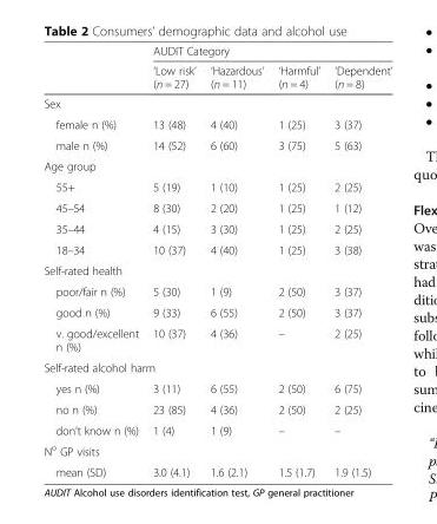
<table><thead><tr><td rowspan="2"></td><td colspan="4">AUDIT Category</td></tr><tr><td>‘Low risk’ (n = 27)</td><td>‘Hazardous’ (n = 11)</td><td>‘Harmful’ (n = 4)</td><td>‘Dependent’ (n = 8)</td></tr></thead><tbody><tr><td colspan="5">Sex</td></tr><tr><td>female n (%)</td><td>13 (48)</td><td>4 (40)</td><td>1 (25)</td><td>3 (37)</td></tr><tr><td>male n (%)</td><td>14 (52)</td><td>6 (60)</td><td>3 (75)</td><td>5 (63)</td></tr><tr><td colspan="5">Age group</td></tr><tr><td>55+</td><td>5 (19)</td><td>1 (10)</td><td>1 (25)</td><td>2 (25)</td></tr><tr><td>45–54</td><td>8 (30)</td><td>2 (20)</td><td>1 (25)</td><td>1 (12)</td></tr><tr><td>35–44</td><td>4 (15)</td><td>3 (30)</td><td>1 (25)</td><td>2 (25)</td></tr><tr><td>18–34</td><td>10 (37)</td><td>4 (40)</td><td>1 (25)</td><td>3 (38)</td></tr><tr><td colspan="5">Self-rated health</td></tr><tr><td>poor/fair n (%)</td><td>5 (30)</td><td>1 (9)</td><td>2 (50)</td><td>3 (37)</td></tr><tr><td>good n (%)</td><td>9 (33)</td><td>6 (55)</td><td>2 (50)</td><td>3 (37)</td></tr><tr><td>v. good/excellent n (%)</td><td>10 (37)</td><td>4 (36)</td><td>–</td><td>2 (25)</td></tr><tr><td colspan="5">Self-rated alcohol harm</td></tr><tr><td>yes n (%)</td><td>3 (11)</td><td>6 (55)</td><td>2 (50)</td><td>6 (75)</td></tr><tr><td>no n (%)</td><td>23 (85)</td><td>4 (36)</td><td>2 (50)</td><td>2 (25)</td></tr><tr><td>don’t know n (%)</td><td>1 (4)</td><td>1 (9)</td><td>–</td><td>–</td></tr><tr><td colspan="5">N<sup>o</sup> GP visits</td></tr><tr><td>mean (SD)</td><td>3.0 (4.1)</td><td>1.6 (2.1)</td><td>1.5 (1.7)</td><td>1.9 (1.5)</td></tr></tbody></table>